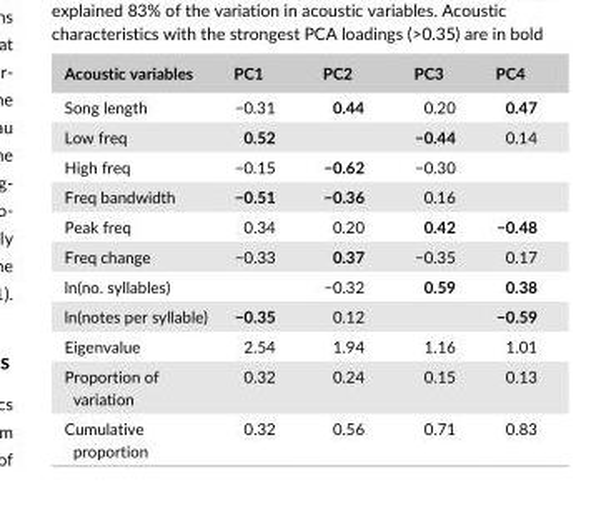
<table><thead><tr><td>Acoustic variables</td><td>PC1</td><td>PC2</td><td>PC3</td><td>PC4</td></tr></thead><tbody><tr><td>Song length</td><td>−0.31</td><td>0.44</td><td>0.20</td><td>0.47</td></tr><tr><td>Low freq</td><td>0.52</td><td></td><td>−0.44</td><td>0.14</td></tr><tr><td>High freq</td><td>−0.15</td><td>−0.62</td><td>−0.30</td><td></td></tr><tr><td>Freq bandwidth</td><td>−0.51</td><td>−0.36</td><td>0.16</td><td></td></tr><tr><td>Peak freq</td><td>0.34</td><td>0.20</td><td>0.42</td><td>−0.48</td></tr><tr><td>Freq change</td><td>−0.33</td><td>0.37</td><td>−0.35</td><td>0.17</td></tr><tr><td>ln(no. syllables)</td><td></td><td>−0.32</td><td>0.59</td><td>0.38</td></tr><tr><td>ln(notes per syllable)</td><td>−0.35</td><td>0.12</td><td></td><td>−0.59</td></tr><tr><td>Eigenvalue</td><td>2.54</td><td>1.94</td><td>1.16</td><td>1.01</td></tr><tr><td>Proportion of variation</td><td>0.32</td><td>0.24</td><td>0.15</td><td>0.13</td></tr><tr><td>Cumulative proportion</td><td>0.32</td><td>0.56</td><td>0.71</td><td>0.83</td></tr></tbody></table>